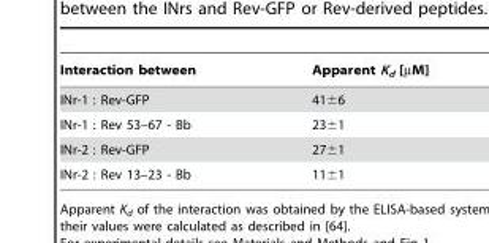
<table><thead><tr><td>Interaction between</td><td>Apparent K<sub>d</sub> [µM]</td></tr></thead><tbody><tr><td>INr-1 : Rev-GFP</td><td>41±6</td></tr><tr><td>INr-1 : Rev 53–67 - Bb</td><td>23±1</td></tr><tr><td>INr-2 : Rev-GFP</td><td>27±1</td></tr><tr><td>INr-2 : Rev 13–23 - Bb</td><td>11±1</td></tr></tbody></table>